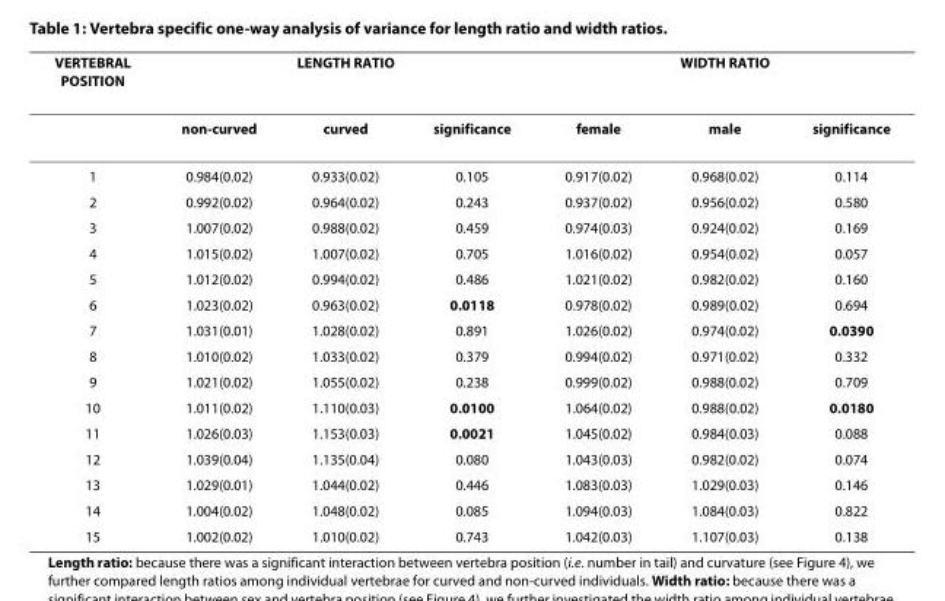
<table><thead><tr><td rowspan="2">VERTEBRAL POSITION</td><td colspan="3">LENGTH RATIO</td><td colspan="3">WIDTH RATIO</td></tr><tr><td>non-curved</td><td>curved</td><td>significance</td><td>female</td><td>male</td><td>significance</td></tr></thead><tbody><tr><td>1</td><td>0.984(0.02)</td><td>0.933(0.02)</td><td>0.105</td><td>0.917(0.02)</td><td>0.968(0.02)</td><td>0.114</td></tr><tr><td>2</td><td>0.992(0.02)</td><td>0.964(0.02)</td><td>0.243</td><td>0.937(0.02)</td><td>0.956(0.02)</td><td>0.580</td></tr><tr><td>3</td><td>1.007(0.02)</td><td>0.988(0.02)</td><td>0.459</td><td>0.974(0.03)</td><td>0.924(0.02)</td><td>0.169</td></tr><tr><td>4</td><td>1.015(0.02)</td><td>1.007(0.02)</td><td>0.705</td><td>1.016(0.02)</td><td>0.954(0.02)</td><td>0.057</td></tr><tr><td>5</td><td>1.012(0.02)</td><td>0.994(0.02)</td><td>0.486</td><td>1.021(0.02)</td><td>0.982(0.02)</td><td>0.160</td></tr><tr><td>6</td><td>1.023(0.02)</td><td>0.963(0.02)</td><td>0.0118</td><td>0.978(0.02)</td><td>0.989(0.02)</td><td>0.694</td></tr><tr><td>7</td><td>1.031(0.01)</td><td>1.028(0.02)</td><td>0.891</td><td>1.026(0.02)</td><td>0.974(0.02)</td><td>0.0390</td></tr><tr><td>8</td><td>1.010(0.02)</td><td>1.033(0.02)</td><td>0.379</td><td>0.994(0.02)</td><td>0.971(0.02)</td><td>0.332</td></tr><tr><td>9</td><td>1.021(0.02)</td><td>1.055(0.02)</td><td>0.238</td><td>0.999(0.02)</td><td>0.988(0.02)</td><td>0.709</td></tr><tr><td>10</td><td>1.011(0.02)</td><td>1.110(0.03)</td><td>0.0100</td><td>1.064(0.02)</td><td>0.988(0.02)</td><td>0.0180</td></tr><tr><td>11</td><td>1.026(0.03)</td><td>1.153(0.03)</td><td>0.0021</td><td>1.045(0.02)</td><td>0.984(0.03)</td><td>0.088</td></tr><tr><td>12</td><td>1.039(0.04)</td><td>1.135(0.04)</td><td>0.080</td><td>1.043(0.03)</td><td>0.982(0.02)</td><td>0.074</td></tr><tr><td>13</td><td>1.029(0.01)</td><td>1.044(0.02)</td><td>0.446</td><td>1.083(0.03)</td><td>1.029(0.03)</td><td>0.146</td></tr><tr><td>14</td><td>1.004(0.02)</td><td>1.048(0.02)</td><td>0.085</td><td>1.094(0.03)</td><td>1.084(0.03)</td><td>0.822</td></tr><tr><td>15</td><td>1.002(0.02)</td><td>1.010(0.02)</td><td>0.743</td><td>1.042(0.03)</td><td>1.107(0.03)</td><td>0.138</td></tr></tbody></table>